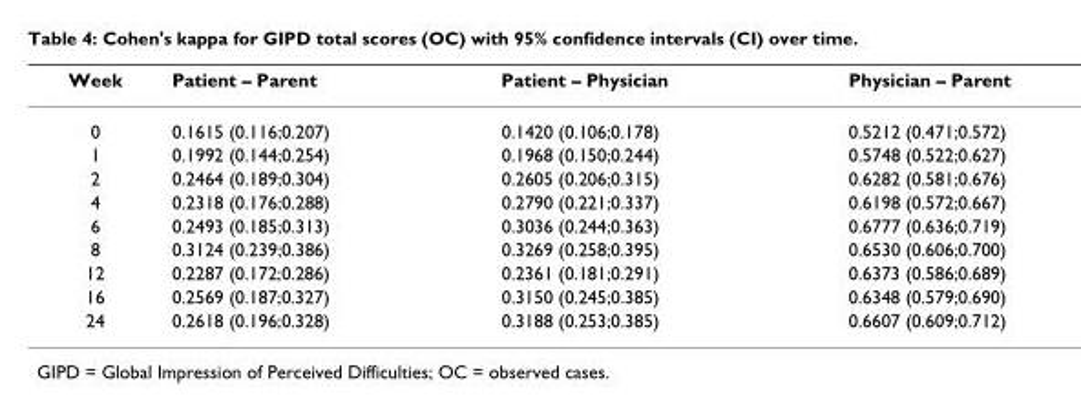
<table><thead><tr><td>Week</td><td>Patient – Parent</td><td>Patient – Physician</td><td>Physician – Parent</td></tr></thead><tbody><tr><td>0</td><td>0.1615 (0.116;0.207)</td><td>0.1420 (0.106;0.178)</td><td>0.5212 (0.471;0.572)</td></tr><tr><td>1</td><td>0.1992 (0.144;0.254)</td><td>0.1968 (0.150;0.244)</td><td>0.5748 (0.522;0.627)</td></tr><tr><td>2</td><td>0.2464 (0.189;0.304)</td><td>0.2605 (0.206;0.315)</td><td>0.6282 (0.581;0.676)</td></tr><tr><td>4</td><td>0.2318 (0.176;0.288)</td><td>0.2790 (0.221;0.337)</td><td>0.6198 (0.572;0.667)</td></tr><tr><td>6</td><td>0.2493 (0.185;0.313)</td><td>0.3036 (0.244;0.363)</td><td>0.6777 (0.636;0.719)</td></tr><tr><td>8</td><td>0.3124 (0.239;0.386)</td><td>0.3269 (0.258;0.395)</td><td>0.6530 (0.606;0.700)</td></tr><tr><td>12</td><td>0.2287 (0.172;0.286)</td><td>0.2361 (0.181;0.291)</td><td>0.6373 (0.586;0.689)</td></tr><tr><td>16</td><td>0.2569 (0.187;0.327)</td><td>0.3150 (0.245;0.385)</td><td>0.6348 (0.579;0.690)</td></tr><tr><td>24</td><td>0.2618 (0.196;0.328)</td><td>0.3188 (0.253;0.385)</td><td>0.6607 (0.609;0.712)</td></tr></tbody></table>